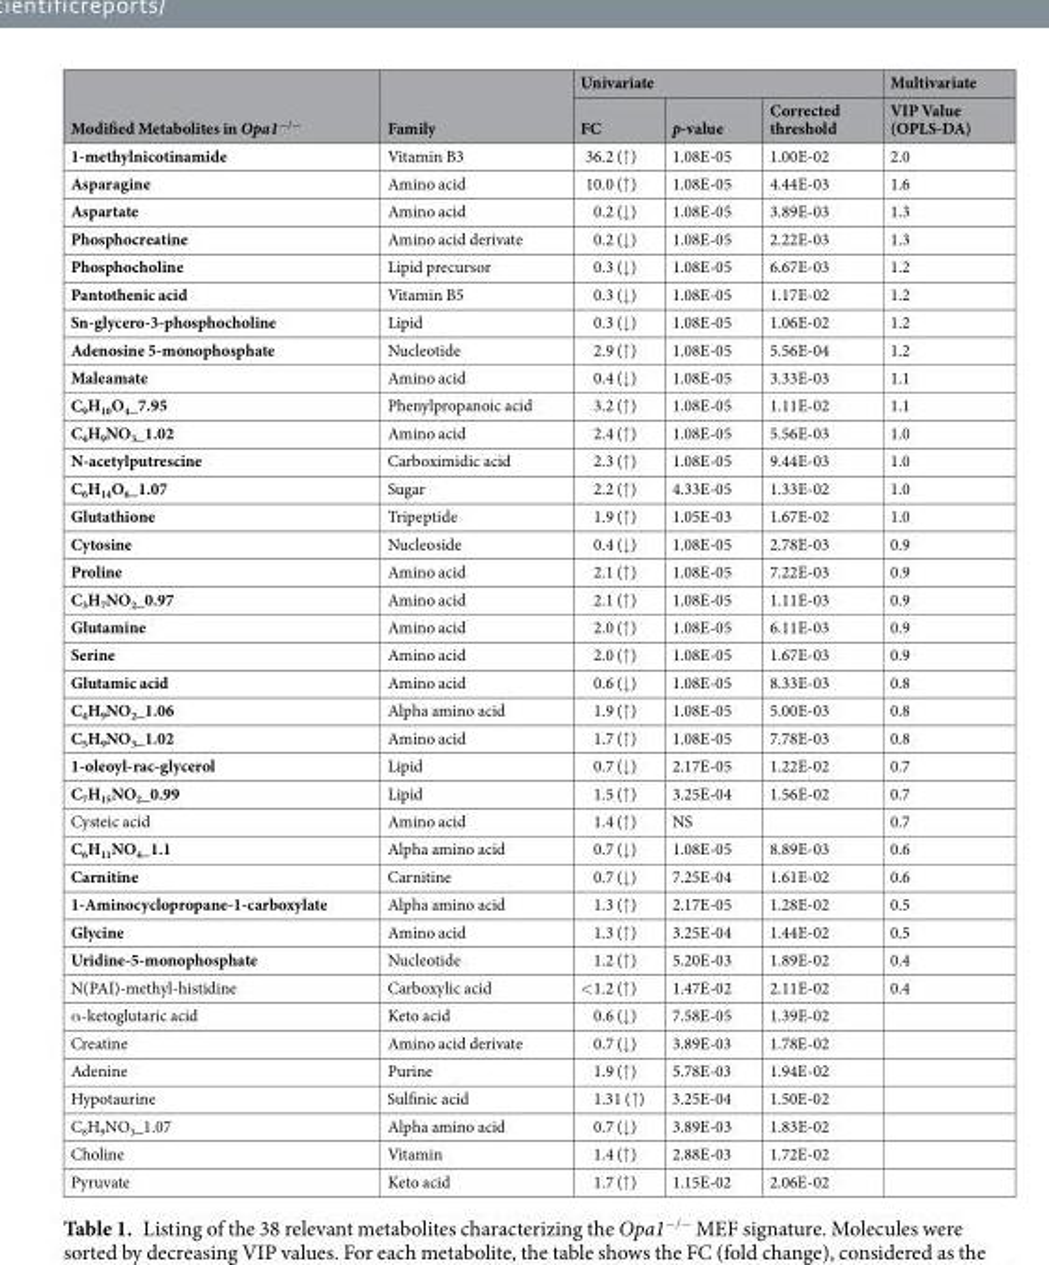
<table><thead><tr><td rowspan="2">Modified Metabolites in Opa1<sup>−/−</sup></td><td rowspan="2">Family</td><td colspan="3">Univariate</td><td rowspan="2">Multivariate VIP Value (OPLS-DA)</td></tr><tr><td>FC</td><td>p-value</td><td>Corrected threshold</td></tr></thead><tbody><tr><td>1-methylnicotinamide</td><td>Vitamin B3</td><td>36.2 (↑)</td><td>1.08E-05</td><td>1.00E-02</td><td>2.0</td></tr><tr><td>Asparagine</td><td>Amino acid</td><td>10.0 (↑)</td><td>1.08E-05</td><td>4.44E-03</td><td>1.6</td></tr><tr><td>Aspartate</td><td>Amino acid</td><td>0.2 (↓)</td><td>1.08E-05</td><td>3.89E-03</td><td>1.3</td></tr><tr><td>Phosphocreatine</td><td>Amino acid derivate</td><td>0.2 (↓)</td><td>1.08E-05</td><td>2.22E-03</td><td>1.3</td></tr><tr><td>Phosphocholine</td><td>Lipid precursor</td><td>0.3 (↓)</td><td>1.08E-05</td><td>6.67E-03</td><td>1.2</td></tr><tr><td>Pantothenic acid</td><td>Vitamin B5</td><td>0.3 (↓)</td><td>1.08E-05</td><td>1.17E-02</td><td>1.2</td></tr><tr><td>Sn-glycero-3-phosphocholine</td><td>Lipid</td><td>0.3 (↓)</td><td>1.08E-05</td><td>1.06E-02</td><td>1.2</td></tr><tr><td>Adenosine 5-monophosphate</td><td>Nucleotide</td><td>2.9 (↑)</td><td>1.08E-05</td><td>5.56E-04</td><td>1.2</td></tr><tr><td>Maleamate</td><td>Amino acid</td><td>0.4 (↓)</td><td>1.08E-05</td><td>3.33E-03</td><td>1.1</td></tr><tr><td>C<sub>9</sub>H<sub>10</sub>O<sub>4</sub>_7.95</td><td>Phenylpropanoic acid</td><td>3.2 (↑)</td><td>1.08E-05</td><td>1.11E-02</td><td>1.1</td></tr><tr><td>C<sub>4</sub>H<sub>9</sub>NO<sub>3</sub>_1.02</td><td>Amino acid</td><td>2.4 (↑)</td><td>1.08E-05</td><td>5.56E-03</td><td>1.0</td></tr><tr><td>N-acetylputrescine</td><td>Carboximidic acid</td><td>2.3 (↑)</td><td>1.08E-05</td><td>9.44E-03</td><td>1.0</td></tr><tr><td>C<sub>6</sub>H<sub>14</sub>O<sub>6</sub>_1.07</td><td>Sugar</td><td>2.2 (↑)</td><td>4.33E-05</td><td>1.33E-02</td><td>1.0</td></tr><tr><td>Glutathione</td><td>Tripeptide</td><td>1.9 (↑)</td><td>1.05E-03</td><td>1.67E-02</td><td>1.0</td></tr><tr><td>Cytosine</td><td>Nucleoside</td><td>0.4 (↓)</td><td>1.08E-05</td><td>2.78E-03</td><td>0.9</td></tr><tr><td>Proline</td><td>Amino acid</td><td>2.1 (↑)</td><td>1.08E-05</td><td>7.22E-03</td><td>0.9</td></tr><tr><td>C<sub>3</sub>H<sub>7</sub>NO<sub>2</sub>_0.97</td><td>Amino acid</td><td>2.1 (↑)</td><td>1.08E-05</td><td>1.11E-03</td><td>0.9</td></tr><tr><td>Glutamine</td><td>Amino acid</td><td>2.0 (↑)</td><td>1.08E-05</td><td>6.11E-03</td><td>0.9</td></tr><tr><td>Serine</td><td>Amino acid</td><td>2.0 (↑)</td><td>1.08E-05</td><td>1.67E-03</td><td>0.9</td></tr><tr><td>Glutamic acid</td><td>Amino acid</td><td>0.6 (↓)</td><td>1.08E-05</td><td>8.33E-03</td><td>0.8</td></tr><tr><td>C<sub>4</sub>H<sub>9</sub>NO<sub>2</sub>_1.06</td><td>Alpha amino acid</td><td>1.9 (↑)</td><td>1.08E-05</td><td>5.00E-03</td><td>0.8</td></tr><tr><td>C<sub>5</sub>H<sub>9</sub>NO<sub>3</sub>_1.02</td><td>Amino acid</td><td>1.7 (↑)</td><td>1.08E-05</td><td>7.78E-03</td><td>0.8</td></tr><tr><td>1-oleoyl-rac-glycerol</td><td>Lipid</td><td>0.7 (↓)</td><td>2.17E-05</td><td>1.22E-02</td><td>0.7</td></tr><tr><td>C<sub>7</sub>H<sub>15</sub>NO<sub>2</sub>_0.99</td><td>Lipid</td><td>1.5 (↑)</td><td>3.25E-04</td><td>1.56E-02</td><td>0.7</td></tr><tr><td>Cysteic acid</td><td>Amino acid</td><td>1.4 (↑)</td><td>NS</td><td></td><td>0.7</td></tr><tr><td>C<sub>6</sub>H<sub>11</sub>NO<sub>4</sub>_1.1</td><td>Alpha amino acid</td><td>0.7 (↓)</td><td>1.08E-05</td><td>8.89E-03</td><td>0.6</td></tr><tr><td>Carnitine</td><td>Carnitine</td><td>0.7 (↓)</td><td>7.25E-04</td><td>1.61E-02</td><td>0.6</td></tr><tr><td>1-Aminocyclopropane-1-carboxylate</td><td>Alpha amino acid</td><td>1.3 (↑)</td><td>2.17E-05</td><td>1.28E-02</td><td>0.5</td></tr><tr><td>Glycine</td><td>Amino acid</td><td>1.3 (↑)</td><td>3.25E-04</td><td>1.44E-02</td><td>0.5</td></tr><tr><td>Uridine-5-monophosphate</td><td>Nucleotide</td><td>1.2 (↑)</td><td>5.20E-03</td><td>1.89E-02</td><td>0.4</td></tr><tr><td>N(PAI)-methyl-histidine</td><td>Carboxylic acid</td><td>&lt;1.2 (↑)</td><td>1.47E-02</td><td>2.11E-02</td><td>0.4</td></tr><tr><td>α-ketoglutaric acid</td><td>Keto acid</td><td>0.6 (↓)</td><td>7.58E-05</td><td>1.39E-02</td><td></td></tr><tr><td>Creatine</td><td>Amino acid derivate</td><td>0.7 (↓)</td><td>3.89E-03</td><td>1.78E-02</td><td></td></tr><tr><td>Adenine</td><td>Purine</td><td>1.9 (↑)</td><td>5.78E-03</td><td>1.94E-02</td><td></td></tr><tr><td>Hypotaurine</td><td>Sulfinic acid</td><td>1.31 (↑)</td><td>3.25E-04</td><td>1.50E-02</td><td></td></tr><tr><td>C8H9NO3_1.07</td><td>Alpha amino acid</td><td>0.7 (↓)</td><td>3.89E-03</td><td>1.83E-02</td><td></td></tr><tr><td>Choline</td><td>Vitamin</td><td>1.4 (↑)</td><td>2.88E-03</td><td>1.72E-02</td><td></td></tr><tr><td>Pyruvate</td><td>Keto acid</td><td>1.7 (↑)</td><td>1.15E-02</td><td>2.06E-02</td><td></td></tr></tbody></table>